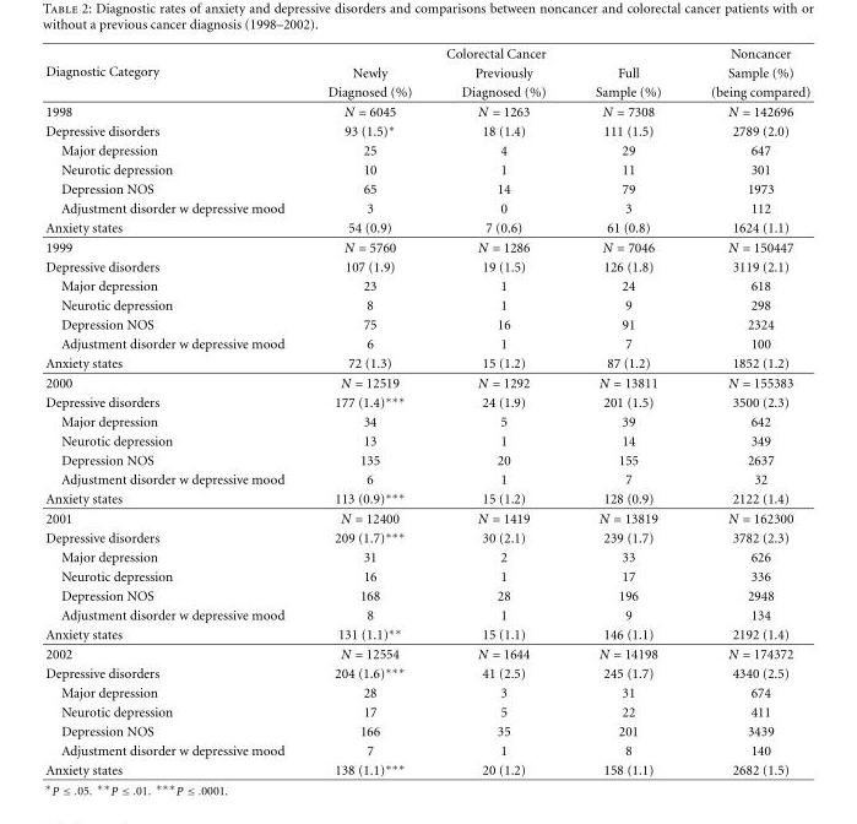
<table><thead><tr><td rowspan="3">Diagnostic Category</td><td colspan="3">Colorectal Cancer</td><td rowspan="3">Noncancer Sample (%) (being compared)</td></tr><tr><td rowspan="2">Newly Diagnosed (%)</td><td rowspan="2">Previously Diagnosed (%)</td><td rowspan="2">Full Sample (%)</td></tr><tr></tr></thead><tbody><tr><td>1998</td><td>N = 6045</td><td>N = 1263</td><td>N = 7308</td><td>N = 142696</td></tr><tr><td>Depressive disorders</td><td>93 (1.5)∗</td><td>18 (1.4)</td><td>111 (1.5)</td><td>2789 (2.0)</td></tr><tr><td>Major depression</td><td>25</td><td>4</td><td>29</td><td>647</td></tr><tr><td>Neurotic depression</td><td>10</td><td>1</td><td>11</td><td>301</td></tr><tr><td>Depression NOS</td><td>65</td><td>14</td><td>79</td><td>1973</td></tr><tr><td>Adjustment disorder w depressive mood</td><td>3</td><td>0</td><td>3</td><td>112</td></tr><tr><td>Anxiety states</td><td>54 (0.9)</td><td>7 (0.6)</td><td>61 (0.8)</td><td>1624 (1.1)</td></tr><tr><td>1999</td><td>N = 5760</td><td>N = 1286</td><td>N = 7046</td><td>N = 150447</td></tr><tr><td>Depressive disorders</td><td>107 (1.9)</td><td>19 (1.5)</td><td>126 (1.8)</td><td>3119 (2.1)</td></tr><tr><td>Major depression</td><td>23</td><td>1</td><td>24</td><td>618</td></tr><tr><td>Neurotic depression</td><td>8</td><td>1</td><td>9</td><td>298</td></tr><tr><td>Depression NOS</td><td>75</td><td>16</td><td>91</td><td>2324</td></tr><tr><td>Adjustment disorder w depressive mood</td><td>6</td><td>1</td><td>7</td><td>100</td></tr><tr><td>Anxiety states</td><td>72 (1.3)</td><td>15 (1.2)</td><td>87 (1.2)</td><td>1852 (1.2)</td></tr><tr><td>2000</td><td>N = 12519</td><td>N = 1292</td><td>N = 13811</td><td>N = 155383</td></tr><tr><td>Depressive disorders</td><td>177 (1.4)∗∗∗</td><td>24 (1.9)</td><td>201 (1.5)</td><td>3500 (2.3)</td></tr><tr><td>Major depression</td><td>34</td><td>5</td><td>39</td><td>642</td></tr><tr><td>Neurotic depression</td><td>13</td><td>1</td><td>14</td><td>349</td></tr><tr><td>Depression NOS</td><td>135</td><td>20</td><td>155</td><td>2637</td></tr><tr><td>Adjustment disorder w depressive mood</td><td>6</td><td>1</td><td>7</td><td>32</td></tr><tr><td>Anxiety states</td><td>113 (0.9)∗∗∗</td><td>15 (1.2)</td><td>128 (0.9)</td><td>2122 (1.4)</td></tr><tr><td>2001</td><td>N = 12400</td><td>N = 1419</td><td>N = 13819</td><td>N = 162300</td></tr><tr><td>Depressive disorders</td><td>209 (1.7)∗∗∗</td><td>30 (2.1)</td><td>239 (1.7)</td><td>3782 (2.3)</td></tr><tr><td>Major depression</td><td>31</td><td>2</td><td>33</td><td>626</td></tr><tr><td>Neurotic depression</td><td>16</td><td>1</td><td>17</td><td>336</td></tr><tr><td>Depression NOS</td><td>168</td><td>28</td><td>196</td><td>2948</td></tr><tr><td>Adjustment disorder w depressive mood</td><td>8</td><td>1</td><td>9</td><td>134</td></tr><tr><td>Anxiety states</td><td>131 (1.1)∗∗</td><td>15 (1.1)</td><td>146 (1.1)</td><td>2192 (1.4)</td></tr><tr><td>2002</td><td>N = 12554</td><td>N = 1644</td><td>N = 14198</td><td>N = 174372</td></tr><tr><td>Depressive disorders</td><td>204 (1.6)∗∗∗</td><td>41 (2.5)</td><td>245 (1.7)</td><td>4340 (2.5)</td></tr><tr><td>Major depression</td><td>28</td><td>3</td><td>31</td><td>674</td></tr><tr><td>Neurotic depression</td><td>17</td><td>5</td><td>22</td><td>411</td></tr><tr><td>Depression NOS</td><td>166</td><td>35</td><td>201</td><td>3439</td></tr><tr><td>Adjustment disorder w depressive mood</td><td>7</td><td>1</td><td>8</td><td>140</td></tr><tr><td>Anxiety states</td><td>138 (1.1)∗∗∗</td><td>20 (1.2)</td><td>158 (1.1)</td><td>2682 (1.5)</td></tr></tbody></table>